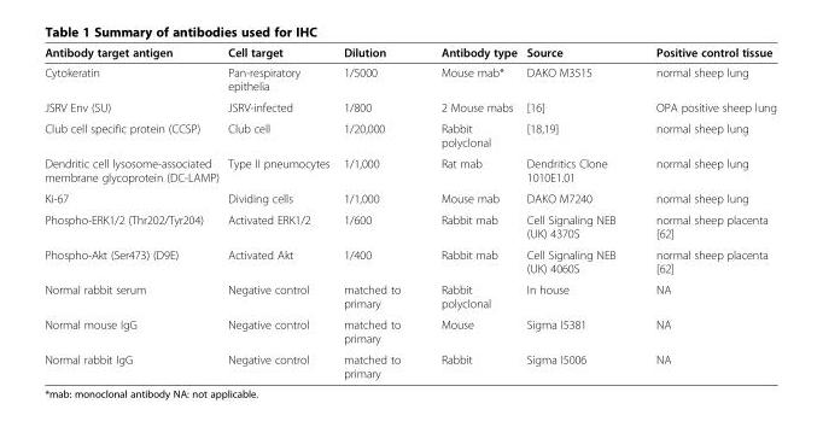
<table><thead><tr><td>Antibody target antigen</td><td>Cell target</td><td>Dilution</td><td>Antibody type</td><td>Source</td><td>Positive control tissue</td></tr></thead><tbody><tr><td>Cytokeratin</td><td>Pan-respiratory epithelia</td><td>1/5000</td><td>Mouse mab*</td><td>DAKO M3515</td><td>normal sheep lung</td></tr><tr><td>JSRV Env (SU)</td><td>JSRV-infected</td><td>1/800</td><td>2 Mouse mabs</td><td>[16]</td><td>OPA positive sheep lung</td></tr><tr><td>Club cell specific protein (CCSP)</td><td>Club cell</td><td>1/20,000</td><td>Rabbit polyclonal</td><td>[18,19]</td><td>normal sheep lung</td></tr><tr><td>Dendritic cell lysosome-associated membrane glycoprotein (DC-LAMP)</td><td>Type II pneumocytes</td><td>1/1,000</td><td>Rat mab</td><td>Dendritics Clone 1010E1.01</td><td>normal sheep lung</td></tr><tr><td>Ki-67</td><td>Dividing cells</td><td>1/1,000</td><td>Mouse mab</td><td>DAKO M7240</td><td>normal sheep lung</td></tr><tr><td>Phospho-ERK1/2 (Thr202/Tyr204)</td><td>Activated ERK1/2</td><td>1/600</td><td>Rabbit mab</td><td>Cell Signaling NEB (UK) 4370S</td><td>normal sheep placenta [62]</td></tr><tr><td>Phospho-Akt (Ser473) (D9E)</td><td>Activated Akt</td><td>1/400</td><td>Rabbit mab</td><td>Cell Signaling NEB (UK) 4060S</td><td>normal sheep placenta [62]</td></tr><tr><td>Normal rabbit serum</td><td>Negative control</td><td>matched to primary</td><td>Rabbit polyclonal</td><td>In house</td><td>NA</td></tr><tr><td>Normal mouse IgG</td><td>Negative control</td><td>matched to primary</td><td>Mouse</td><td>Sigma I5381</td><td>NA</td></tr><tr><td>Normal rabbit IgG</td><td>Negative control</td><td>matched to primary</td><td>Rabbit</td><td>Sigma I5006</td><td>NA</td></tr></tbody></table>